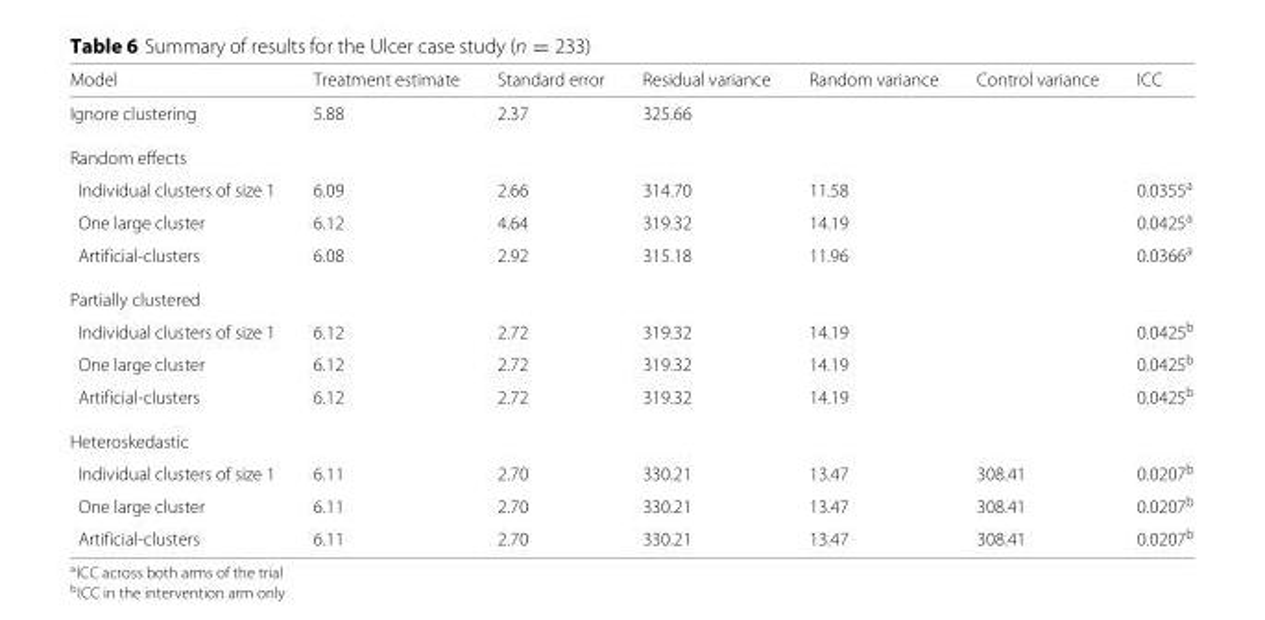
<table><thead><tr><td>Model</td><td>Treatment estimate</td><td>Standard error</td><td>Residual variance</td><td>Random variance</td><td>Control variance</td><td>ICC</td></tr></thead><tbody><tr><td>Ignore clustering</td><td>5.88</td><td>2.37</td><td>325.66</td><td></td><td></td><td></td></tr><tr><td colspan="7">Random effects</td></tr><tr><td>Individual clusters of size 1</td><td>6.09</td><td>2.66</td><td>314.70</td><td>11.58</td><td></td><td>0.0355<sup>a</sup></td></tr><tr><td>One large cluster</td><td>6.12</td><td>4.64</td><td>319.32</td><td>14.19</td><td></td><td>0.0425<sup>a</sup></td></tr><tr><td>Artificial-clusters</td><td>6.08</td><td>2.92</td><td>315.18</td><td>11.96</td><td></td><td>0.0366<sup>a</sup></td></tr><tr><td colspan="7">Partially clustered</td></tr><tr><td>Individual clusters of size 1</td><td>6.12</td><td>2.72</td><td>319.32</td><td>14.19</td><td></td><td>0.0425<sup>b</sup></td></tr><tr><td>One large cluster</td><td>6.12</td><td>2.72</td><td>319.32</td><td>14.19</td><td></td><td>0.0425<sup>b</sup></td></tr><tr><td>Artificial-clusters</td><td>6.12</td><td>2.72</td><td>319.32</td><td>14.19</td><td></td><td>0.0425<sup>b</sup></td></tr><tr><td colspan="7">Heteroskedastic</td></tr><tr><td>Individual clusters of size 1</td><td>6.11</td><td>2.70</td><td>330.21</td><td>13.47</td><td>308.41</td><td>0.0207<sup>b</sup></td></tr><tr><td>One large cluster</td><td>6.11</td><td>2.70</td><td>330.21</td><td>13.47</td><td>308.41</td><td>0.0207<sup>b</sup></td></tr><tr><td>Artificial-clusters</td><td>6.11</td><td>2.70</td><td>330.21</td><td>13.47</td><td>308.41</td><td>0.0207<sup>b</sup></td></tr></tbody></table>